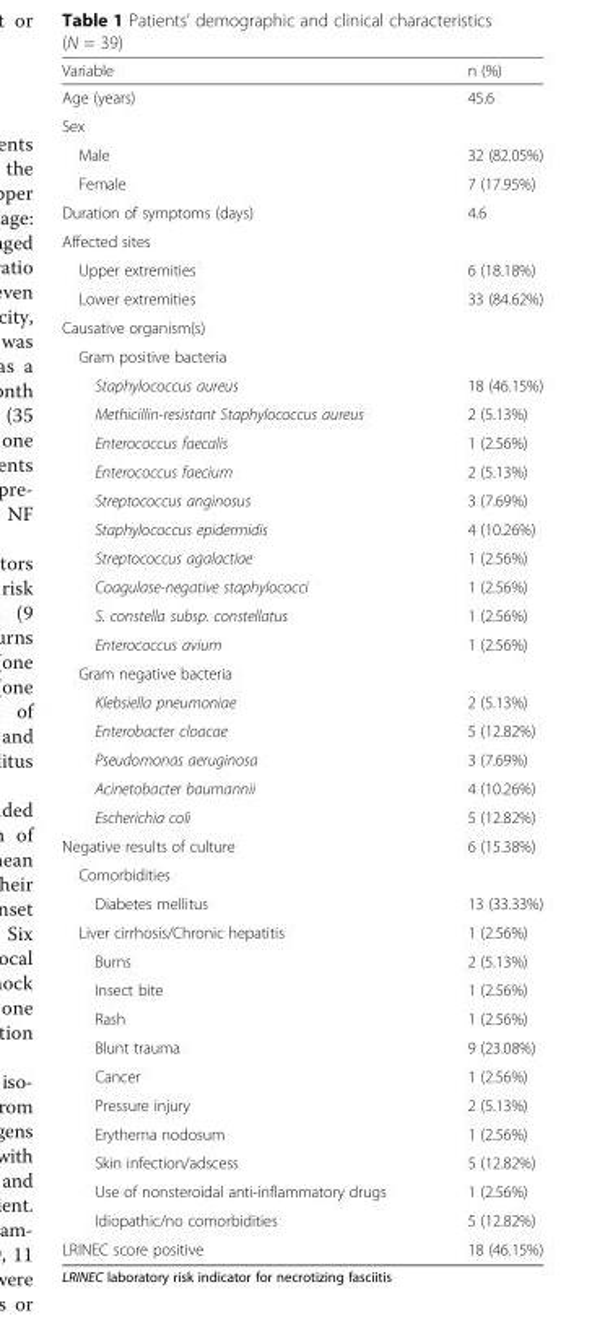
<table><thead><tr><td>Variable</td><td>n (%)</td></tr></thead><tbody><tr><td>Age (years)</td><td>45.6</td></tr><tr><td colspan="2">Sex</td></tr><tr><td>Male</td><td>32 (82.05%)</td></tr><tr><td>Female</td><td>7 (17.95%)</td></tr><tr><td>Duration of symptoms (days)</td><td>4.6</td></tr><tr><td colspan="2">Affected sites</td></tr><tr><td>Upper extremities</td><td>6 (18.18%)</td></tr><tr><td>Lower extremities</td><td>33 (84.62%)</td></tr><tr><td colspan="2">Causative organism(s)</td></tr><tr><td colspan="2">Gram positive bacteria</td></tr><tr><td>Staphylococcus aureus</td><td>18 (46.15%)</td></tr><tr><td>Methicillin-resistant Staphylococcus aureus</td><td>2 (5.13%)</td></tr><tr><td>Enterococcus faecalis</td><td>1 (2.56%)</td></tr><tr><td>Enterococcus faecium</td><td>2 (5.13%)</td></tr><tr><td>Streptococcus anginosus</td><td>3 (7.69%)</td></tr><tr><td>Staphylococcus epidermidis</td><td>4 (10.26%)</td></tr><tr><td>Streptococcus agalactiae</td><td>1 (2.56%)</td></tr><tr><td>Coagulase-negative staphylococci</td><td>1 (2.56%)</td></tr><tr><td>S. constella subsp. constellatus</td><td>1 (2.56%)</td></tr><tr><td>Enterococcus avium</td><td>1 (2.56%)</td></tr><tr><td colspan="2">Gram negative bacteria</td></tr><tr><td>Klebsiella pneumoniae</td><td>2 (5.13%)</td></tr><tr><td>Enterobacter cloacae</td><td>5 (12.82%)</td></tr><tr><td>Pseudomonas aeruginosa</td><td>3 (7.69%)</td></tr><tr><td>Acinetobacter baumannii</td><td>4 (10.26%)</td></tr><tr><td>Escherichia coli</td><td>5 (12.82%)</td></tr><tr><td>Negative results of culture</td><td>6 (15.38%)</td></tr><tr><td colspan="2">Comorbidities</td></tr><tr><td>Diabetes mellitus</td><td>13 (33.33%)</td></tr><tr><td>Liver cirrhosis/Chronic hepatitis</td><td>1 (2.56%)</td></tr><tr><td>Burns</td><td>2 (5.13%)</td></tr><tr><td>Insect bite</td><td>1 (2.56%)</td></tr><tr><td>Rash</td><td>1 (2.56%)</td></tr><tr><td>Blunt trauma</td><td>9 (23.08%)</td></tr><tr><td>Cancer</td><td>1 (2.56%)</td></tr><tr><td>Pressure injury</td><td>2 (5.13%)</td></tr><tr><td>Erythema nodosum</td><td>1 (2.56%)</td></tr><tr><td>Skin infection/adscess</td><td>5 (12.82%)</td></tr><tr><td>Use of nonsteroidal anti-inflammatory drugs</td><td>1 (2.56%)</td></tr><tr><td>Idiopathic/no comorbidities</td><td>5 (12.82%)</td></tr><tr><td>LRINEC score positive</td><td>18 (46.15%)</td></tr></tbody></table>